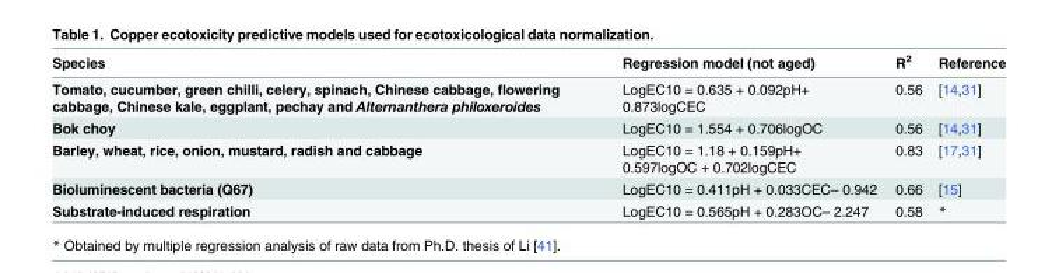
<table><thead><tr><td>Species</td><td>Regression model (not aged)</td><td>R<sup>2</sup></td><td>Reference</td></tr></thead><tbody><tr><td>Tomato, cucumber, green chilli, celery, spinach, Chinese cabbage, flowering cabbage, Chinese kale, eggplant, pechay and Alternanthera philoxeroides</td><td>LogEC10 = 0.635 + 0.092pH+ 0.873logCEC</td><td>0.56</td><td>[14,31]</td></tr><tr><td>Bok choy</td><td>LogEC10 = 1.554 + 0.706logOC</td><td>0.56</td><td>[14,31]</td></tr><tr><td>Barley, wheat, rice, onion, mustard, radish and cabbage</td><td>LogEC10 = 1.18 + 0.159pH+ 0.597logOC + 0.702logCEC</td><td>0.83</td><td>[17,31]</td></tr><tr><td>Bioluminescent bacteria (Q67)</td><td>LogEC10 = 0.411pH + 0.033CEC– 0.942</td><td>0.66</td><td>[15]</td></tr><tr><td>Substrate-induced respiration</td><td>LogEC10 = 0.565pH + 0.283OC– 2.247</td><td>0.58</td><td>*</td></tr></tbody></table>